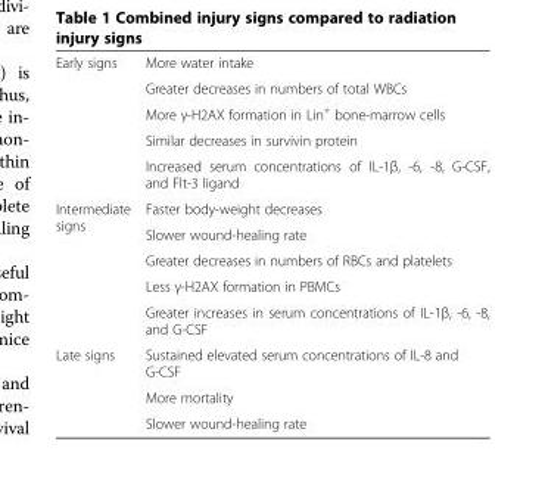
<table><tbody><tr><td rowspan="5">Early signs</td><td>More water intake</td></tr><tr><td>Greater decreases in numbers of total WBCs</td></tr><tr><td>More γ-H2AX formation in Lin<sup>+</sup> bone-marrow cells</td></tr><tr><td>Similar decreases in survivin protein</td></tr><tr><td>Increased serum concentrations of IL-1β, -6, -8, G-CSF, and Flt-3 ligand</td></tr><tr><td rowspan="5">Intermediate signs</td><td>Faster body-weight decreases</td></tr><tr><td>Slower wound-healing rate</td></tr><tr><td>Greater decreases in numbers of RBCs and platelets</td></tr><tr><td>Less γ-H2AX formation in PBMCs</td></tr><tr><td>Greater increases in serum concentrations of IL-1β, -6, -8, and G-CSF</td></tr><tr><td rowspan="3">Late signs</td><td>Sustained elevated serum concentrations of IL-8 and G-CSF</td></tr><tr><td>More mortality</td></tr><tr><td>Slower wound-healing rate</td></tr></tbody></table>